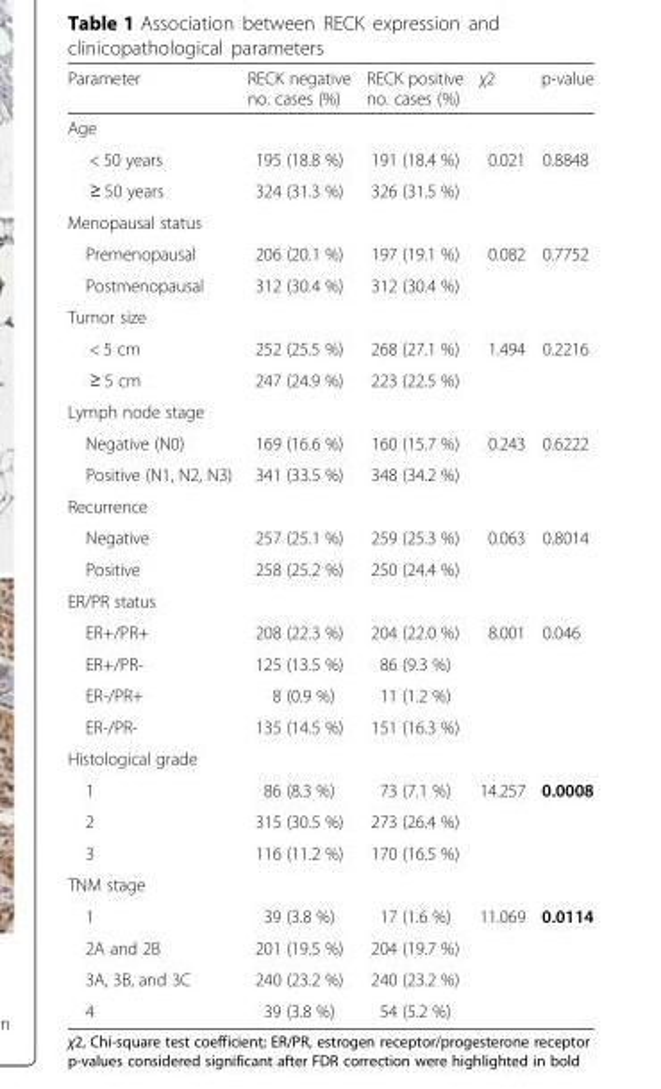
<table><thead><tr><td>Parameter</td><td>RECK negative no. cases (%)</td><td>RECK positive no. cases (%)</td><td>χ2</td><td>p-value</td></tr></thead><tbody><tr><td colspan="5">Age</td></tr><tr><td>&lt; 50 years</td><td>195 (18.8 %)</td><td>191 (18.4 %)</td><td>0.021</td><td>0.8848</td></tr><tr><td>≥ 50 years</td><td>324 (31.3 %)</td><td colspan="3">326 (31.5 %)</td></tr><tr><td colspan="5">Menopausal status</td></tr><tr><td>Premenopausal</td><td>206 (20.1 %)</td><td>197 (19.1 %)</td><td>0.082</td><td>0.7752</td></tr><tr><td>Postmenopausal</td><td>312 (30.4 %)</td><td colspan="3">312 (30.4 %)</td></tr><tr><td colspan="5">Tumor size</td></tr><tr><td>&lt; 5 cm</td><td>252 (25.5 %)</td><td>268 (27.1 %)</td><td>1.494</td><td>0.2216</td></tr><tr><td>≥ 5 cm</td><td>247 (24.9 %)</td><td colspan="3">223 (22.5 %)</td></tr><tr><td colspan="5">Lymph node stage</td></tr><tr><td>Negative (N0)</td><td>169 (16.6 %)</td><td>160 (15.7 %)</td><td>0.243</td><td>0.6222</td></tr><tr><td>Positive (N1, N2, N3)</td><td>341 (33.5 %)</td><td colspan="3">348 (34.2 %)</td></tr><tr><td colspan="5">Recurrence</td></tr><tr><td>Negative</td><td>257 (25.1 %)</td><td>259 (25.3 %)</td><td>0.063</td><td>0.8014</td></tr><tr><td>Positive</td><td>258 (25.2 %)</td><td colspan="3">250 (24.4 %)</td></tr><tr><td colspan="5">ER/PR status</td></tr><tr><td>ER+/PR+</td><td>208 (22.3 %)</td><td>204 (22.0 %)</td><td>8.001</td><td>0.046</td></tr><tr><td>ER+/PR-</td><td>125 (13.5 %)</td><td colspan="3">86 (9.3 %)</td></tr><tr><td>ER-/PR+</td><td>8 (0.9 %)</td><td colspan="3">11 (1.2 %)</td></tr><tr><td>ER-/PR-</td><td>135 (14.5 %)</td><td colspan="3">151 (16.3 %)</td></tr><tr><td colspan="5">Histological grade</td></tr><tr><td>1</td><td>86 (8.3 %)</td><td>73 (7.1 %)</td><td>14.257</td><td>0.0008</td></tr><tr><td>2</td><td>315 (30.5 %)</td><td colspan="3">273 (26.4 %)</td></tr><tr><td>3</td><td>116 (11.2 %)</td><td colspan="3">170 (16.5 %)</td></tr><tr><td colspan="5">TNM stage</td></tr><tr><td>1</td><td>39 (3.8 %)</td><td>17 (1.6 %)</td><td>11.069</td><td>0.0114</td></tr><tr><td>2A and 2B</td><td>201 (19.5 %)</td><td colspan="3">204 (19.7 %)</td></tr><tr><td>3A, 3B, and 3C</td><td>240 (23.2 %)</td><td colspan="3">240 (23.2 %)</td></tr><tr><td>4</td><td>39 (3.8 %)</td><td colspan="3">54 (5.2 %)</td></tr></tbody></table>